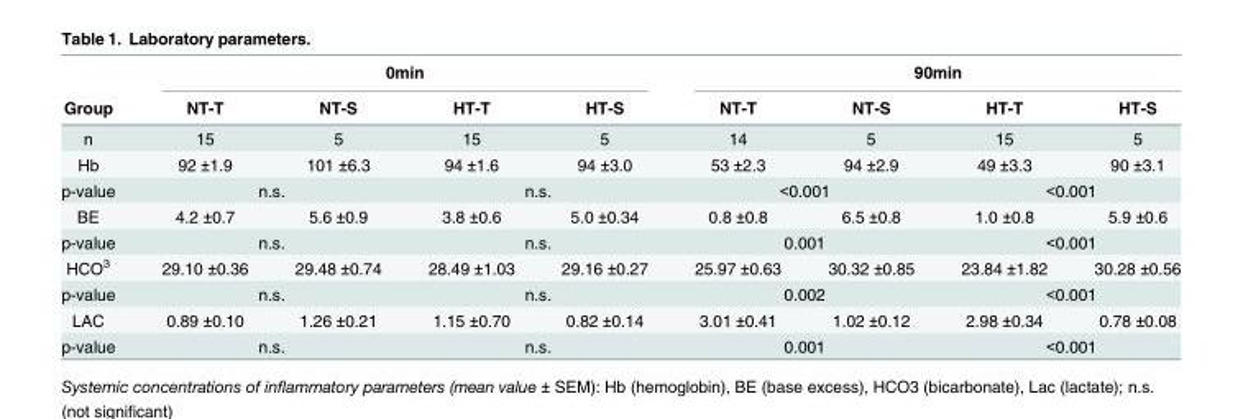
<table><thead><tr><td rowspan="2">Group</td><td colspan="4">0min</td><td colspan="4">90min</td></tr><tr><td>NT-T</td><td>NT-S</td><td>HT-T</td><td>HT-S</td><td>NT-T</td><td>NT-S</td><td>HT-T</td><td>HT-S</td></tr></thead><tbody><tr><td>n</td><td>15</td><td>5</td><td>15</td><td>5</td><td>14</td><td>5</td><td>15</td><td>5</td></tr><tr><td>Hb</td><td>92 ±1.9</td><td>101 ±6.3</td><td>94 ±1.6</td><td>94 ±3.0</td><td>53 ±2.3</td><td>94 ±2.9</td><td>49 ±3.3</td><td>90 ±3.1</td></tr><tr><td>p-value</td><td colspan="2">n.s.</td><td colspan="2">n.s.</td><td colspan="2">&lt;0.001</td><td colspan="2">&lt;0.001</td></tr><tr><td>BE</td><td>4.2 ±0.7</td><td>5.6 ±0.9</td><td>3.8 ±0.6</td><td>5.0 ±0.34</td><td>0.8 ±0.8</td><td>6.5 ±0.8</td><td>1.0 ±0.8</td><td>5.9 ±0.6</td></tr><tr><td>p-value</td><td colspan="2">n.s.</td><td colspan="2">n.s.</td><td colspan="2">0.001</td><td colspan="2">&lt;0.001</td></tr><tr><td>HCO<sup>3</sup></td><td>29.10 ±0.36</td><td>29.48 ±0.74</td><td>28.49 ±1.03</td><td>29.16 ±0.27</td><td>25.97 ±0.63</td><td>30.32 ±0.85</td><td>23.84 ±1.82</td><td>30.28 ±0.56</td></tr><tr><td>p-value</td><td colspan="2">n.s.</td><td colspan="2">n.s.</td><td colspan="2">0.002</td><td colspan="2">&lt;0.001</td></tr><tr><td>LAC</td><td>0.89 ±0.10</td><td>1.26 ±0.21</td><td>1.15 ±0.70</td><td>0.82 ±0.14</td><td>3.01 ±0.41</td><td>1.02 ±0.12</td><td>2.98 ±0.34</td><td>0.78 ±0.08</td></tr><tr><td>p-value</td><td colspan="2">n.s.</td><td colspan="2">n.s.</td><td colspan="2">0.001</td><td colspan="2">&lt;0.001</td></tr></tbody></table>